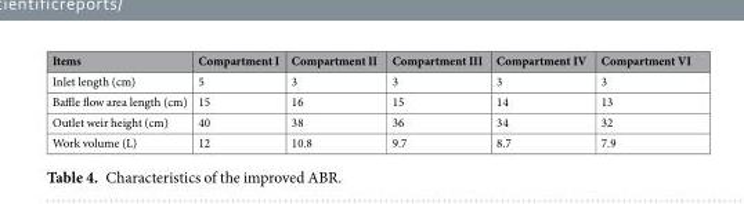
<table><thead><tr><td>Items</td><td>Compartment I</td><td>Compartment II</td><td>Compartment III</td><td>Compartment IV</td><td>Compartment VI</td></tr></thead><tbody><tr><td>Inlet length (cm)</td><td>5</td><td>3</td><td>3</td><td>3</td><td>3</td></tr><tr><td>Baffle flow area length (cm)</td><td>15</td><td>16</td><td>15</td><td>14</td><td>13</td></tr><tr><td>Outlet weir height (cm)</td><td>40</td><td>38</td><td>36</td><td>34</td><td>32</td></tr><tr><td>Work volume (L)</td><td>12</td><td>10.8</td><td>9.7</td><td>8.7</td><td>7.9</td></tr></tbody></table>